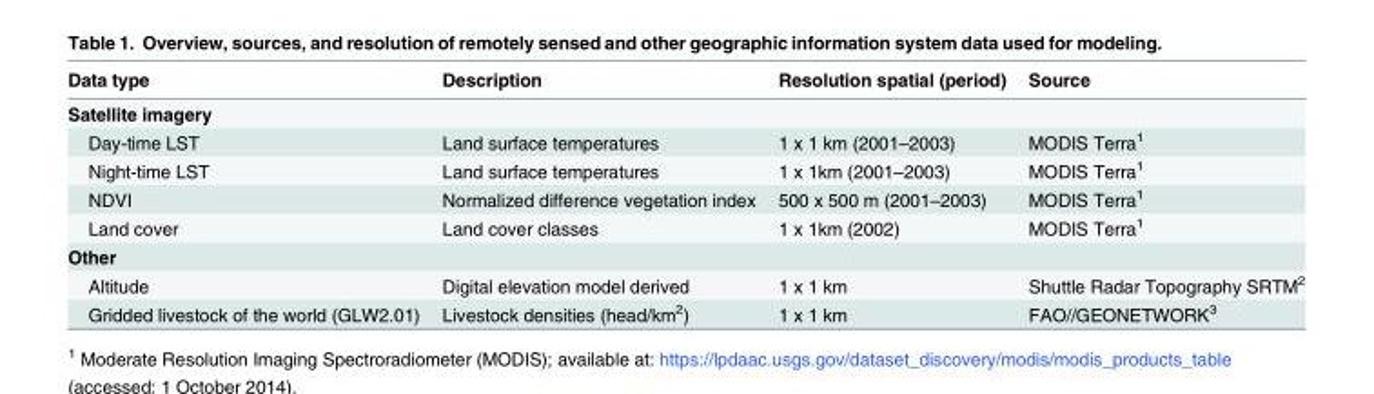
<table><thead><tr><td>Data type</td><td>Description</td><td>Resolution spatial (period)</td><td>Source</td></tr></thead><tbody><tr><td colspan="4">Satellite imagery</td></tr><tr><td>Day-time LST</td><td>Land surface temperatures</td><td>1 x 1 km (2001–2003)</td><td>MODIS Terra<sup>1</sup></td></tr><tr><td>Night-time LST</td><td>Land surface temperatures</td><td>1 x 1km (2001–2003)</td><td>MODIS Terra<sup>1</sup></td></tr><tr><td>NDVI</td><td>Normalized difference vegetation index</td><td>500 x 500 m (2001–2003)</td><td>MODIS Terra<sup>1</sup></td></tr><tr><td>Land cover</td><td>Land cover classes</td><td>1 x 1km (2002)</td><td>MODIS Terra<sup>1</sup></td></tr><tr><td colspan="4">Other</td></tr><tr><td>Altitude</td><td>Digital elevation model derived</td><td>1 x 1 km</td><td>Shuttle Radar Topography SRTM<sup>2</sup></td></tr><tr><td>Gridded livestock of the world (GLW2.01)</td><td>Livestock densities (head/km<sup>2</sup>)</td><td>1 x 1 km</td><td>FAO//GEONETWORK<sup>3</sup></td></tr></tbody></table>